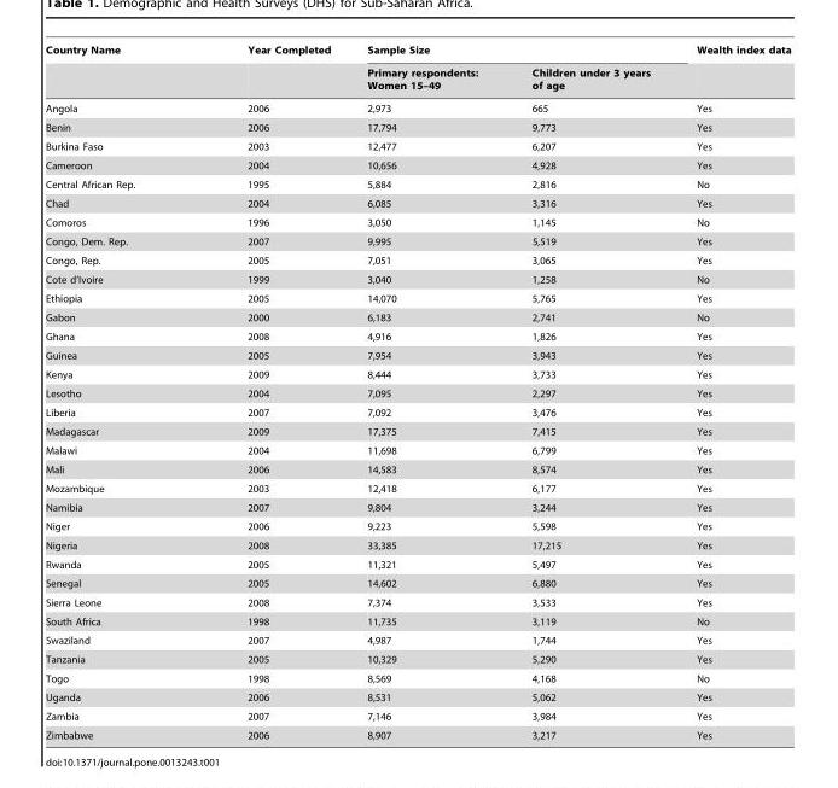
<table><thead><tr><td rowspan="2">Country Name</td><td rowspan="2">Year Completed</td><td colspan="2">Sample Size</td><td rowspan="2">Wealth index data</td></tr><tr><td>Primary respondents: Women 15–49</td><td>Children under 3 years of age</td></tr></thead><tbody><tr><td>Angola</td><td>2006</td><td>2,973</td><td>665</td><td>Yes</td></tr><tr><td>Benin</td><td>2006</td><td>17,794</td><td>9,773</td><td>Yes</td></tr><tr><td>Burkina Faso</td><td>2003</td><td>12,477</td><td>6,207</td><td>Yes</td></tr><tr><td>Cameroon</td><td>2004</td><td>10,656</td><td>4,928</td><td>Yes</td></tr><tr><td>Central African Rep.</td><td>1995</td><td>5,884</td><td>2,816</td><td>No</td></tr><tr><td>Chad</td><td>2004</td><td>6,085</td><td>3,316</td><td>Yes</td></tr><tr><td>Comoros</td><td>1996</td><td>3,050</td><td>1,145</td><td>No</td></tr><tr><td>Congo, Dem. Rep.</td><td>2007</td><td>9,995</td><td>5,519</td><td>Yes</td></tr><tr><td>Congo, Rep.</td><td>2005</td><td>7,051</td><td>3,065</td><td>Yes</td></tr><tr><td>Cote d’Ivoire</td><td>1999</td><td>3,040</td><td>1,258</td><td>No</td></tr><tr><td>Ethiopia</td><td>2005</td><td>14,070</td><td>5,765</td><td>Yes</td></tr><tr><td>Gabon</td><td>2000</td><td>6,183</td><td>2,741</td><td>No</td></tr><tr><td>Ghana</td><td>2008</td><td>4,916</td><td>1,826</td><td>Yes</td></tr><tr><td>Guinea</td><td>2005</td><td>7,954</td><td>3,943</td><td>Yes</td></tr><tr><td>Kenya</td><td>2009</td><td>8,444</td><td>3,733</td><td>Yes</td></tr><tr><td>Lesotho</td><td>2004</td><td>7,095</td><td>2,297</td><td>Yes</td></tr><tr><td>Liberia</td><td>2007</td><td>7,092</td><td>3,476</td><td>Yes</td></tr><tr><td>Madagascar</td><td>2009</td><td>17,375</td><td>7,415</td><td>Yes</td></tr><tr><td>Malawi</td><td>2004</td><td>11,698</td><td>6,799</td><td>Yes</td></tr><tr><td>Mali</td><td>2006</td><td>14,583</td><td>8,574</td><td>Yes</td></tr><tr><td>Mozambique</td><td>2003</td><td>12,418</td><td>6,177</td><td>Yes</td></tr><tr><td>Namibia</td><td>2007</td><td>9,804</td><td>3,244</td><td>Yes</td></tr><tr><td>Niger</td><td>2006</td><td>9,223</td><td>5,598</td><td>Yes</td></tr><tr><td>Nigeria</td><td>2008</td><td>33,385</td><td>17,215</td><td>Yes</td></tr><tr><td>Rwanda</td><td>2005</td><td>11,321</td><td>5,497</td><td>Yes</td></tr><tr><td>Senegal</td><td>2005</td><td>14,602</td><td>6,880</td><td>Yes</td></tr><tr><td>Sierra Leone</td><td>2008</td><td>7,374</td><td>3,533</td><td>Yes</td></tr><tr><td>South Africa</td><td>1998</td><td>11,735</td><td>3,119</td><td>No</td></tr><tr><td>Swaziland</td><td>2007</td><td>4,987</td><td>1,744</td><td>Yes</td></tr><tr><td>Tanzania</td><td>2005</td><td>10,329</td><td>5,290</td><td>Yes</td></tr><tr><td>Togo</td><td>1998</td><td>8,569</td><td>4,168</td><td>No</td></tr><tr><td>Uganda</td><td>2006</td><td>8,531</td><td>5,062</td><td>Yes</td></tr><tr><td>Zambia</td><td>2007</td><td>7,146</td><td>3,984</td><td>Yes</td></tr><tr><td>Zimbabwe</td><td>2006</td><td>8,907</td><td>3,217</td><td>Yes</td></tr></tbody></table>